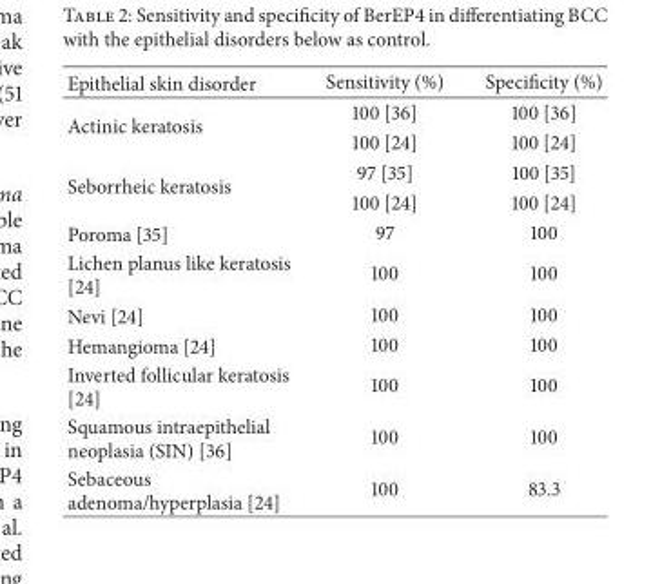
<table><thead><tr><td>Epithelial skin disorder</td><td>Sensitivity (%)</td><td>Specificity (%)</td></tr></thead><tbody><tr><td rowspan="2">Actinic keratosis</td><td>100 [36]</td><td>100 [36]</td></tr><tr><td>100 [24]</td><td>100 [24]</td></tr><tr><td rowspan="2">Seborrheic keratosis</td><td>97 [35]</td><td>100 [35]</td></tr><tr><td>100 [24]</td><td>100 [24]</td></tr><tr><td>Poroma [35]</td><td>97</td><td>100</td></tr><tr><td>Lichen planus like keratosis [24]</td><td>100</td><td>100</td></tr><tr><td>Nevi [24]</td><td>100</td><td>100</td></tr><tr><td>Hemangioma [24]</td><td>100</td><td>100</td></tr><tr><td>Inverted follicular keratosis [24]</td><td>100</td><td>100</td></tr><tr><td>Squamous intraepithelial neoplasia (SIN) [36]</td><td>100</td><td>100</td></tr><tr><td>Sebaceous adenoma/hyperplasia [24]</td><td>100</td><td>83.3</td></tr></tbody></table>